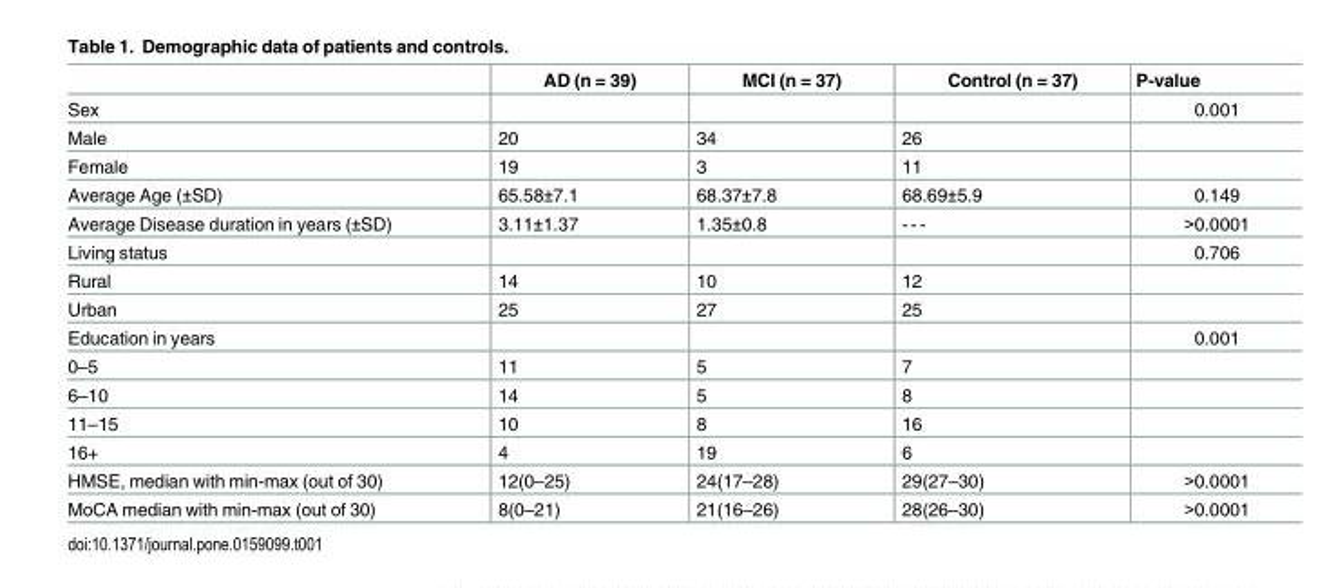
<table><thead><tr><td></td><td>AD (n = 39)</td><td>MCI (n = 37)</td><td>Control (n = 37)</td><td>P-value</td></tr></thead><tbody><tr><td>Sex</td><td></td><td></td><td></td><td>0.001</td></tr><tr><td>Male</td><td>20</td><td>34</td><td>26</td><td></td></tr><tr><td>Female</td><td>19</td><td>3</td><td>11</td><td></td></tr><tr><td>Average Age (±SD)</td><td>65.58±7.1</td><td>68.37±7.8</td><td>68.69±5.9</td><td>0.149</td></tr><tr><td>Average Disease duration in years (±SD)</td><td>3.11±1.37</td><td>1.35±0.8</td><td>- - -</td><td>&gt;0.0001</td></tr><tr><td>Living status</td><td></td><td></td><td></td><td>0.706</td></tr><tr><td>Rural</td><td>14</td><td>10</td><td>12</td><td></td></tr><tr><td>Urban</td><td>25</td><td>27</td><td>25</td><td></td></tr><tr><td>Education in years</td><td></td><td></td><td></td><td>0.001</td></tr><tr><td>0–5</td><td>11</td><td>5</td><td>7</td><td></td></tr><tr><td>6–10</td><td>14</td><td>5</td><td>8</td><td></td></tr><tr><td>11–15</td><td>10</td><td>8</td><td>16</td><td></td></tr><tr><td>16+</td><td>4</td><td>19</td><td>6</td><td></td></tr><tr><td>HMSE, median with min-max (out of 30)</td><td>12(0–25)</td><td>24(17–28)</td><td>29(27–30)</td><td>&gt;0.0001</td></tr><tr><td>MoCA median with min-max (out of 30)</td><td>8(0–21)</td><td>21(16–26)</td><td>28(26–30)</td><td>&gt;0.0001</td></tr></tbody></table>